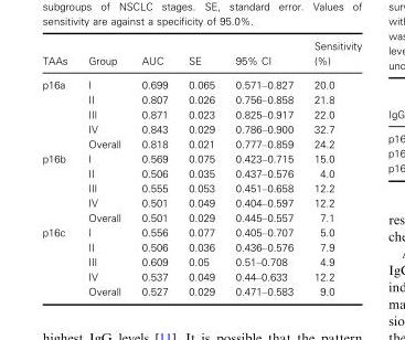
<table><thead><tr><td>TAAs</td><td>Group</td><td>AUC</td><td>SE</td><td>95% CI</td><td>Sensitivity (%)</td></tr></thead><tbody><tr><td rowspan="5">p16a</td><td>I</td><td>0.699</td><td>0.065</td><td>0.571–0.827</td><td>20.0</td></tr><tr><td>II</td><td>0.807</td><td>0.026</td><td>0.756–0.858</td><td>21.8</td></tr><tr><td>III</td><td>0.871</td><td>0.023</td><td>0.825–0.917</td><td>22.0</td></tr><tr><td>IV</td><td>0.843</td><td>0.029</td><td>0.786–0.900</td><td>32.7</td></tr><tr><td>Overall</td><td>0.818</td><td>0.021</td><td>0.777–0.859</td><td>24.2</td></tr><tr><td rowspan="5">p16b</td><td>I</td><td>0.569</td><td>0.075</td><td>0.423–0.715</td><td>15.0</td></tr><tr><td>II</td><td>0.506</td><td>0.035</td><td>0.437–0.576</td><td>4.0</td></tr><tr><td>III</td><td>0.555</td><td>0.053</td><td>0.451–0.658</td><td>12.2</td></tr><tr><td>IV</td><td>0.501</td><td>0.049</td><td>0.404–0.597</td><td>12.2</td></tr><tr><td>Overall</td><td>0.501</td><td>0.029</td><td>0.445–0.557</td><td>7.1</td></tr><tr><td rowspan="5">p16c</td><td>I</td><td>0.556</td><td>0.077</td><td>0.405–0.707</td><td>5.0</td></tr><tr><td>II</td><td>0.506</td><td>0.036</td><td>0.436–0.576</td><td>7.9</td></tr><tr><td>III</td><td>0.609</td><td>0.05</td><td>0.51–0.708</td><td>4.9</td></tr><tr><td>IV</td><td>0.537</td><td>0.049</td><td>0.44–0.633</td><td>12.2</td></tr><tr><td>Overall</td><td>0.527</td><td>0.029</td><td>0.471–0.583</td><td>9.0</td></tr></tbody></table>